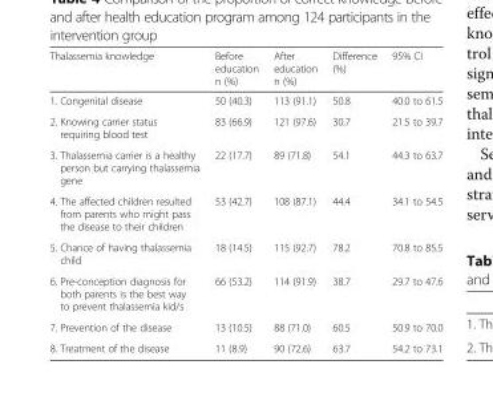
<table><thead><tr><td>Thalassemia knowledge</td><td>Before education n (%)</td><td>After education n (%)</td><td>Difference (%)</td><td>95% CI</td></tr></thead><tbody><tr><td>1. Congenital disease</td><td>50 (40.3)</td><td>113 (91.1)</td><td>50.8</td><td>40.0 to 61.5</td></tr><tr><td>2. Knowing carrier status requiring blood test</td><td>83 (66.9)</td><td>121 (97.6)</td><td>30.7</td><td>21.5 to 39.7</td></tr><tr><td>3. Thalassemia carrier is a healthy person but carrying thalassemia gene</td><td>22 (17.7)</td><td>89 (71.8)</td><td>54.1</td><td>44.3 to 63.7</td></tr><tr><td>4. The affected children resulted from parents who might pass the disease to their children</td><td>53 (42.7)</td><td>108 (87.1)</td><td>44.4</td><td>34.1 to 54.5</td></tr><tr><td>5. Chance of having thalassemia child</td><td>18 (14.5)</td><td>115 (92.7)</td><td>78.2</td><td>70.8 to 85.5</td></tr><tr><td>6. Pre-conception diagnosis for both parents is the best way to prevent thalassemia kid/s</td><td>66 (53.2)</td><td>114 (91.9)</td><td>38.7</td><td>29.7 to 47.6</td></tr><tr><td>7. Prevention of the disease</td><td>13 (10.5)</td><td>88 (71.0)</td><td>60.5</td><td>50.9 to 70.0</td></tr><tr><td>8. Treatment of the disease</td><td>11 (8.9)</td><td>90 (72.6)</td><td>63.7</td><td>54.2 to 73.1</td></tr></tbody></table>